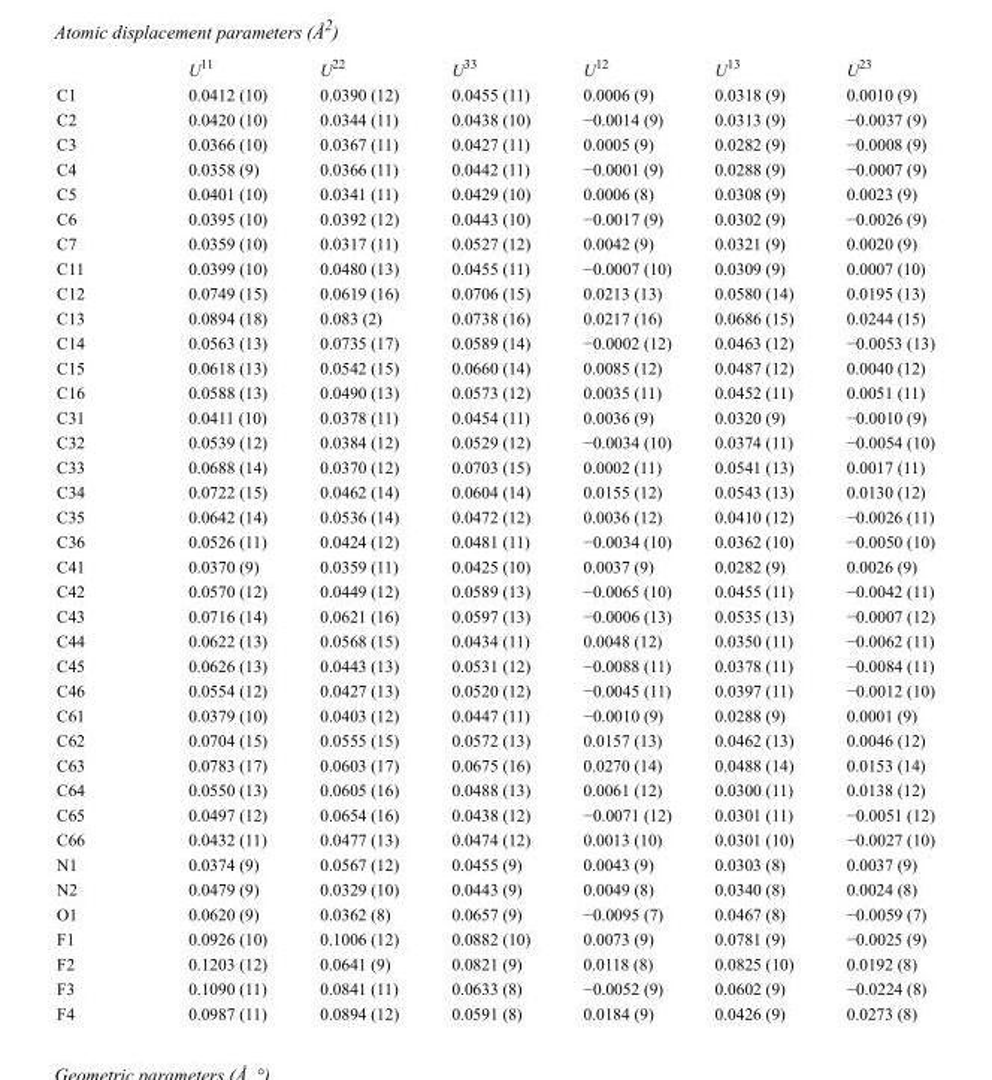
<table><thead><tr><td></td><td>U<sup>11</sup></td><td>U<sup>22</sup></td><td>U<sup>33</sup></td><td>U<sup>12</sup></td><td>U<sup>13</sup></td><td>U<sup>23</sup></td></tr></thead><tbody><tr><td>C1</td><td>0.0412 (10)</td><td>0.0390 (12)</td><td>0.0455 (11)</td><td>0.0006 (9)</td><td>0.0318 (9)</td><td>0.0010 (9)</td></tr><tr><td>C2</td><td>0.0420 (10)</td><td>0.0344 (11)</td><td>0.0438 (10)</td><td>−0.0014 (9)</td><td>0.0313 (9)</td><td>−0.0037 (9)</td></tr><tr><td>C3</td><td>0.0366 (10)</td><td>0.0367 (11)</td><td>0.0427 (11)</td><td>0.0005 (9)</td><td>0.0282 (9)</td><td>−0.0008 (9)</td></tr><tr><td>C4</td><td>0.0358 (9)</td><td>0.0366 (11)</td><td>0.0442 (11)</td><td>−0.0001 (9)</td><td>0.0288 (9)</td><td>−0.0007 (9)</td></tr><tr><td>C5</td><td>0.0401 (10)</td><td>0.0341 (11)</td><td>0.0429 (10)</td><td>0.0006 (8)</td><td>0.0308 (9)</td><td>0.0023 (9)</td></tr><tr><td>C6</td><td>0.0395 (10)</td><td>0.0392 (12)</td><td>0.0443 (10)</td><td>−0.0017 (9)</td><td>0.0302 (9)</td><td>−0.0026 (9)</td></tr><tr><td>C7</td><td>0.0359 (10)</td><td>0.0317 (11)</td><td>0.0527 (12)</td><td>0.0042 (9)</td><td>0.0321 (9)</td><td>0.0020 (9)</td></tr><tr><td>C11</td><td>0.0399 (10)</td><td>0.0480 (13)</td><td>0.0455 (11)</td><td>−0.0007 (10)</td><td>0.0309 (9)</td><td>0.0007 (10)</td></tr><tr><td>C12</td><td>0.0749 (15)</td><td>0.0619 (16)</td><td>0.0706 (15)</td><td>0.0213 (13)</td><td>0.0580 (14)</td><td>0.0195 (13)</td></tr><tr><td>C13</td><td>0.0894 (18)</td><td>0.083 (2)</td><td>0.0738 (16)</td><td>0.0217 (16)</td><td>0.0686 (15)</td><td>0.0244 (15)</td></tr><tr><td>C14</td><td>0.0563 (13)</td><td>0.0735 (17)</td><td>0.0589 (14)</td><td>−0.0002 (12)</td><td>0.0463 (12)</td><td>−0.0053 (13)</td></tr><tr><td>C15</td><td>0.0618 (13)</td><td>0.0542 (15)</td><td>0.0660 (14)</td><td>0.0085 (12)</td><td>0.0487 (12)</td><td>0.0040 (12)</td></tr><tr><td>C16</td><td>0.0588 (13)</td><td>0.0490 (13)</td><td>0.0573 (12)</td><td>0.0035 (11)</td><td>0.0452 (11)</td><td>0.0051 (11)</td></tr><tr><td>C31</td><td>0.0411 (10)</td><td>0.0378 (11)</td><td>0.0454 (11)</td><td>0.0036 (9)</td><td>0.0320 (9)</td><td>−0.0010 (9)</td></tr><tr><td>C32</td><td>0.0539 (12)</td><td>0.0384 (12)</td><td>0.0529 (12)</td><td>−0.0034 (10)</td><td>0.0374 (11)</td><td>−0.0054 (10)</td></tr><tr><td>C33</td><td>0.0688 (14)</td><td>0.0370 (12)</td><td>0.0703 (15)</td><td>0.0002 (11)</td><td>0.0541 (13)</td><td>0.0017 (11)</td></tr><tr><td>C34</td><td>0.0722 (15)</td><td>0.0462 (14)</td><td>0.0604 (14)</td><td>0.0155 (12)</td><td>0.0543 (13)</td><td>0.0130 (12)</td></tr><tr><td>C35</td><td>0.0642 (14)</td><td>0.0536 (14)</td><td>0.0472 (12)</td><td>0.0036 (12)</td><td>0.0410 (12)</td><td>−0.0026 (11)</td></tr><tr><td>C36</td><td>0.0526 (11)</td><td>0.0424 (12)</td><td>0.0481 (11)</td><td>−0.0034 (10)</td><td>0.0362 (10)</td><td>−0.0050 (10)</td></tr><tr><td>C41</td><td>0.0370 (9)</td><td>0.0359 (11)</td><td>0.0425 (10)</td><td>0.0037 (9)</td><td>0.0282 (9)</td><td>0.0026 (9)</td></tr><tr><td>C42</td><td>0.0570 (12)</td><td>0.0449 (12)</td><td>0.0589 (13)</td><td>−0.0065 (10)</td><td>0.0455 (11)</td><td>−0.0042 (11)</td></tr><tr><td>C43</td><td>0.0716 (14)</td><td>0.0621 (16)</td><td>0.0597 (13)</td><td>−0.0006 (13)</td><td>0.0535 (13)</td><td>−0.0007 (12)</td></tr><tr><td>C44</td><td>0.0622 (13)</td><td>0.0568 (15)</td><td>0.0434 (11)</td><td>0.0048 (12)</td><td>0.0350 (11)</td><td>−0.0062 (11)</td></tr><tr><td>C45</td><td>0.0626 (13)</td><td>0.0443 (13)</td><td>0.0531 (12)</td><td>−0.0088 (11)</td><td>0.0378 (11)</td><td>−0.0084 (11)</td></tr><tr><td>C46</td><td>0.0554 (12)</td><td>0.0427 (13)</td><td>0.0520 (12)</td><td>−0.0045 (11)</td><td>0.0397 (11)</td><td>−0.0012 (10)</td></tr><tr><td>C61</td><td>0.0379 (10)</td><td>0.0403 (12)</td><td>0.0447 (11)</td><td>−0.0010 (9)</td><td>0.0288 (9)</td><td>0.0001 (9)</td></tr><tr><td>C62</td><td>0.0704 (15)</td><td>0.0555 (15)</td><td>0.0572 (13)</td><td>0.0157 (13)</td><td>0.0462 (13)</td><td>0.0046 (12)</td></tr><tr><td>C63</td><td>0.0783 (17)</td><td>0.0603 (17)</td><td>0.0675 (16)</td><td>0.0270 (14)</td><td>0.0488 (14)</td><td>0.0153 (14)</td></tr><tr><td>C64</td><td>0.0550 (13)</td><td>0.0605 (16)</td><td>0.0488 (13)</td><td>0.0061 (12)</td><td>0.0300 (11)</td><td>0.0138 (12)</td></tr><tr><td>C65</td><td>0.0497 (12)</td><td>0.0654 (16)</td><td>0.0438 (12)</td><td>−0.0071 (12)</td><td>0.0301 (11)</td><td>−0.0051 (12)</td></tr><tr><td>C66</td><td>0.0432 (11)</td><td>0.0477 (13)</td><td>0.0474 (12)</td><td>0.0013 (10)</td><td>0.0301 (10)</td><td>−0.0027 (10)</td></tr><tr><td>N1</td><td>0.0374 (9)</td><td>0.0567 (12)</td><td>0.0455 (9)</td><td>0.0043 (9)</td><td>0.0303 (8)</td><td>0.0037 (9)</td></tr><tr><td>N2</td><td>0.0479 (9)</td><td>0.0329 (10)</td><td>0.0443 (9)</td><td>0.0049 (8)</td><td>0.0340 (8)</td><td>0.0024 (8)</td></tr><tr><td>O1</td><td>0.0620 (9)</td><td>0.0362 (8)</td><td>0.0657 (9)</td><td>−0.0095 (7)</td><td>0.0467 (8)</td><td>−0.0059 (7)</td></tr><tr><td>F1</td><td>0.0926 (10)</td><td>0.1006 (12)</td><td>0.0882 (10)</td><td>0.0073 (9)</td><td>0.0781 (9)</td><td>−0.0025 (9)</td></tr><tr><td>F2</td><td>0.1203 (12)</td><td>0.0641 (9)</td><td>0.0821 (9)</td><td>0.0118 (8)</td><td>0.0825 (10)</td><td>0.0192 (8)</td></tr><tr><td>F3</td><td>0.1090 (11)</td><td>0.0841 (11)</td><td>0.0633 (8)</td><td>−0.0052 (9)</td><td>0.0602 (9)</td><td>−0.0224 (8)</td></tr><tr><td>F4</td><td>0.0987 (11)</td><td>0.0894 (12)</td><td>0.0591 (8)</td><td>0.0184 (9)</td><td>0.0426 (9)</td><td>0.0273 (8)</td></tr></tbody></table>